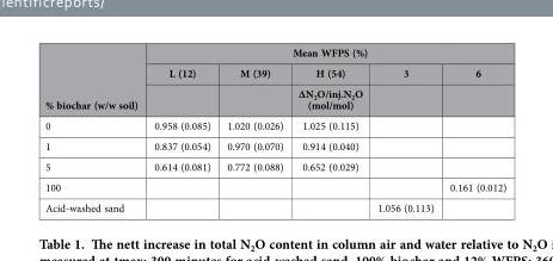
<table><thead><tr><td rowspan="3">% biochar (w/w soil)</td><td colspan="5">Mean WFPS (%)</td></tr><tr><td rowspan="2">L (12)</td><td rowspan="2">M (39)</td><td rowspan="2">H (54) ∆N<sub>2</sub>O/inj.N<sub>2</sub>O (mol/mol)</td><td rowspan="2">3</td><td rowspan="2">6</td></tr><tr></tr></thead><tbody><tr><td>0</td><td>0.958 (0.085)</td><td>1.020 (0.026)</td><td>1.025 (0.115)</td><td></td><td></td></tr><tr><td>1</td><td>0.837 (0.054)</td><td>0.970 (0.070)</td><td>0.914 (0.040)</td><td></td><td></td></tr><tr><td>5</td><td>0.614 (0.081)</td><td>0.772 (0.088)</td><td>0.652 (0.029)</td><td></td><td></td></tr><tr><td>100</td><td></td><td></td><td></td><td></td><td>0.161 (0.012)</td></tr><tr><td>Acid-washed sand</td><td></td><td></td><td></td><td>1.056 (0.113)</td><td></td></tr></tbody></table>